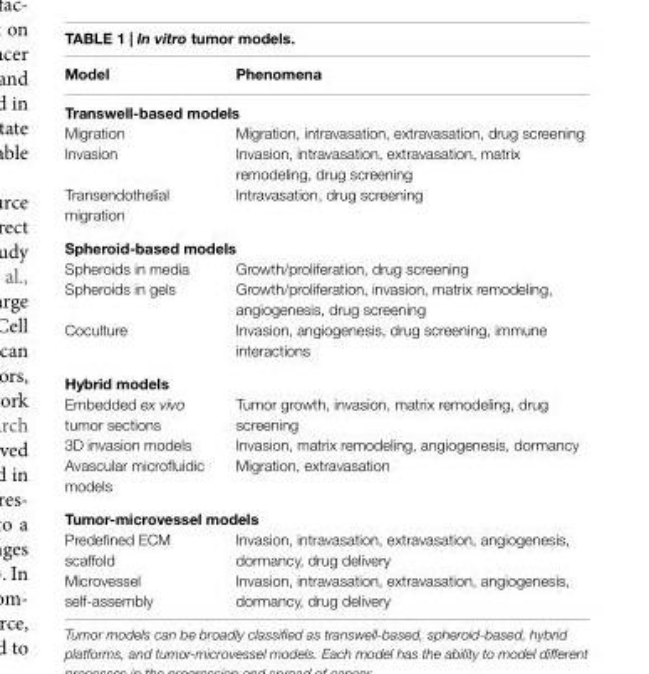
<table><thead><tr><td>Model</td><td>Phenomena</td></tr></thead><tbody><tr><td colspan="2">Transwell-based models</td></tr><tr><td>Migration</td><td>Migration, intravasation, extravasation, drug screening</td></tr><tr><td>Invasion</td><td>Invasion, intravasation, extravasation, matrix remodeling, drug screening</td></tr><tr><td>Transendothelial migration</td><td>Intravasation, drug screening</td></tr><tr><td colspan="2">Spheroid-based models</td></tr><tr><td>Spheroids in media</td><td>Growth/proliferation, drug screening</td></tr><tr><td>Spheroids in gels</td><td>Growth/proliferation, invasion, matrix remodeling, angiogenesis, drug screening</td></tr><tr><td>Coculture</td><td>Invasion, angiogenesis, drug screening, immune interactions</td></tr><tr><td colspan="2">Hybrid models</td></tr><tr><td>Embedded ex vivo tumor sections</td><td>Tumor growth, invasion, matrix remodeling, drug screening</td></tr><tr><td>3D invasion models</td><td>Invasion, matrix remodeling, angiogenesis, dormancy</td></tr><tr><td>Avascular microfluidic models</td><td>Migration, extravasation</td></tr><tr><td colspan="2">Tumor-microvessel models</td></tr><tr><td>Predefined ECM scaffold</td><td>Invasion, intravasation, extravasation, angiogenesis, dormancy, drug delivery</td></tr><tr><td>Microvessel self-assembly</td><td>Invasion, intravasation, extravasation, angiogenesis, dormancy, drug delivery</td></tr></tbody></table>